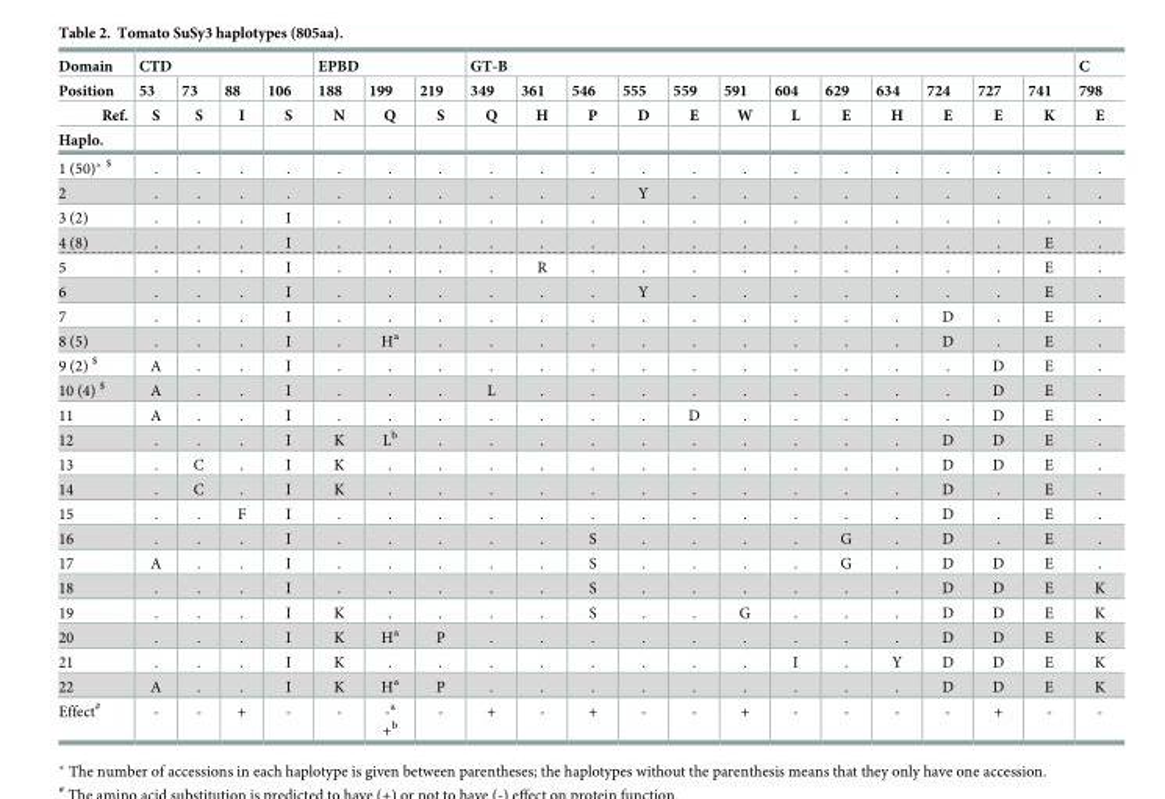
<table><thead><tr><td rowspan="4">Domain Position Ref. Haplo.</td><td colspan="4">CTD</td><td colspan="3">EPBD</td><td colspan="12">GT-B</td><td rowspan="4">C 798 E</td></tr><tr><td rowspan="3">53 S</td><td rowspan="3">73 S</td><td rowspan="3">88 I</td><td rowspan="3">106 S</td><td rowspan="3">188 N</td><td rowspan="3">199 Q</td><td rowspan="3">219 S</td><td rowspan="3">349 Q</td><td rowspan="3">361 H</td><td rowspan="3">546 P</td><td rowspan="3">555 D</td><td rowspan="3">559 E</td><td rowspan="3">591 W</td><td rowspan="3">604 L</td><td rowspan="3">629 E</td><td rowspan="3">634 H</td><td rowspan="3">724 E</td><td rowspan="3">727 E</td><td rowspan="3">741 K</td></tr><tr></tr><tr></tr></thead><tbody><tr><td>1 (50)* <sup>$</sup></td><td>.</td><td>.</td><td>.</td><td>.</td><td>.</td><td>.</td><td>.</td><td>.</td><td>.</td><td>.</td><td>.</td><td>.</td><td>.</td><td>.</td><td>.</td><td>.</td><td>.</td><td>.</td><td>.</td><td>.</td></tr><tr><td>2</td><td>.</td><td>.</td><td>.</td><td>.</td><td>.</td><td>.</td><td>.</td><td>.</td><td>.</td><td>.</td><td>Y</td><td>.</td><td>.</td><td>.</td><td>.</td><td>.</td><td>.</td><td>.</td><td>.</td><td>.</td></tr><tr><td>3 (2)</td><td>.</td><td>.</td><td>.</td><td>I</td><td>.</td><td>.</td><td>.</td><td>.</td><td>.</td><td>.</td><td>.</td><td>.</td><td>.</td><td>.</td><td>.</td><td>.</td><td>.</td><td>.</td><td>.</td><td>.</td></tr><tr><td>4 (8)</td><td>.</td><td>.</td><td>.</td><td>I</td><td>.</td><td>.</td><td>.</td><td>.</td><td>.</td><td>.</td><td>.</td><td>.</td><td>.</td><td>.</td><td>.</td><td>.</td><td>.</td><td>.</td><td>E</td><td>.</td></tr><tr><td>5</td><td>.</td><td>.</td><td>.</td><td>I</td><td>.</td><td>.</td><td>.</td><td>.</td><td>R</td><td>.</td><td>.</td><td>.</td><td>.</td><td>.</td><td>.</td><td>.</td><td>.</td><td>.</td><td>E</td><td>.</td></tr><tr><td>6</td><td>.</td><td>.</td><td>.</td><td>I</td><td>.</td><td>.</td><td>.</td><td>.</td><td>.</td><td>.</td><td>Y</td><td>.</td><td>.</td><td>.</td><td>.</td><td>.</td><td>.</td><td>.</td><td>E</td><td>.</td></tr><tr><td>7</td><td>.</td><td>.</td><td>.</td><td>I</td><td>.</td><td>.</td><td>.</td><td>.</td><td>.</td><td>.</td><td>.</td><td>.</td><td>.</td><td>.</td><td>.</td><td>.</td><td>D</td><td>.</td><td>E</td><td>.</td></tr><tr><td>8 (5)</td><td>.</td><td>.</td><td>.</td><td>I</td><td>.</td><td>H<sup>a</sup></td><td>.</td><td>.</td><td>.</td><td>.</td><td>.</td><td>.</td><td>.</td><td>.</td><td>.</td><td>.</td><td>D</td><td>.</td><td>E</td><td>.</td></tr><tr><td>9 (2) <sup>$</sup></td><td>A</td><td>.</td><td>.</td><td>I</td><td>.</td><td>.</td><td>.</td><td>.</td><td>.</td><td>.</td><td>.</td><td>.</td><td>.</td><td>.</td><td>.</td><td>.</td><td>.</td><td>D</td><td>E</td><td>.</td></tr><tr><td>10 (4) <sup>$</sup></td><td>A</td><td>.</td><td>.</td><td>I</td><td>.</td><td>.</td><td>.</td><td>L</td><td>.</td><td>.</td><td>.</td><td>.</td><td>.</td><td>.</td><td>.</td><td>.</td><td>.</td><td>D</td><td>E</td><td>.</td></tr><tr><td>11</td><td>A</td><td>.</td><td>.</td><td>I</td><td>.</td><td>.</td><td>.</td><td>.</td><td>.</td><td>.</td><td>.</td><td>D</td><td>.</td><td>.</td><td>.</td><td>.</td><td>.</td><td>D</td><td>E</td><td>.</td></tr><tr><td>12</td><td>.</td><td>.</td><td>.</td><td>I</td><td>K</td><td>L<sup>b</sup></td><td>.</td><td>.</td><td>.</td><td>.</td><td>.</td><td>.</td><td>.</td><td>.</td><td>.</td><td>.</td><td>D</td><td>D</td><td>E</td><td>.</td></tr><tr><td>13</td><td>.</td><td>C</td><td>.</td><td>I</td><td>K</td><td>.</td><td>.</td><td>.</td><td>.</td><td>.</td><td>.</td><td>.</td><td>.</td><td>.</td><td>.</td><td>.</td><td>D</td><td>D</td><td>E</td><td>.</td></tr><tr><td>14</td><td>.</td><td>C</td><td>.</td><td>I</td><td>K</td><td>.</td><td>.</td><td>.</td><td>.</td><td>.</td><td>.</td><td>.</td><td>.</td><td>.</td><td>.</td><td>.</td><td>D</td><td>.</td><td>E</td><td>.</td></tr><tr><td>15</td><td>.</td><td>.</td><td>F</td><td>I</td><td>.</td><td>.</td><td>.</td><td>.</td><td>.</td><td>.</td><td>.</td><td>.</td><td>.</td><td>.</td><td>.</td><td>.</td><td>D</td><td>.</td><td>E</td><td>.</td></tr><tr><td>16</td><td>.</td><td>.</td><td>.</td><td>I</td><td>.</td><td>.</td><td>.</td><td>.</td><td>.</td><td>S</td><td>.</td><td>.</td><td>.</td><td>.</td><td>G</td><td>.</td><td>D</td><td>.</td><td>E</td><td>.</td></tr><tr><td>17</td><td>A</td><td>.</td><td>.</td><td>I</td><td>.</td><td>.</td><td>.</td><td>.</td><td>.</td><td>S</td><td>.</td><td>.</td><td>.</td><td>.</td><td>G</td><td>.</td><td>D</td><td>D</td><td>E</td><td>.</td></tr><tr><td>18</td><td>.</td><td>.</td><td>.</td><td>I</td><td>.</td><td>.</td><td>.</td><td>.</td><td>.</td><td>S</td><td>.</td><td>.</td><td>.</td><td>.</td><td>.</td><td>.</td><td>D</td><td>D</td><td>E</td><td>K</td></tr><tr><td>19</td><td>.</td><td>.</td><td>.</td><td>I</td><td>K</td><td>.</td><td>.</td><td>.</td><td>.</td><td>S</td><td>.</td><td>.</td><td>G</td><td>.</td><td>.</td><td>.</td><td>D</td><td>D</td><td>E</td><td>K</td></tr><tr><td>20</td><td>.</td><td>.</td><td>.</td><td>I</td><td>K</td><td>H<sup>a</sup></td><td>P</td><td>.</td><td>.</td><td>.</td><td>.</td><td>.</td><td>.</td><td>.</td><td>.</td><td>.</td><td>D</td><td>D</td><td>E</td><td>K</td></tr><tr><td>21</td><td>.</td><td>.</td><td>.</td><td>I</td><td>K</td><td>.</td><td>.</td><td>.</td><td>.</td><td>.</td><td>.</td><td>.</td><td>.</td><td>I</td><td>.</td><td>Y</td><td>D</td><td>D</td><td>E</td><td>K</td></tr><tr><td>22</td><td>A</td><td>.</td><td>.</td><td>I</td><td>K</td><td>H<sup>a</sup></td><td>P</td><td>.</td><td>.</td><td>.</td><td>.</td><td>.</td><td>.</td><td>.</td><td>.</td><td>.</td><td>D</td><td>D</td><td>E</td><td>K</td></tr><tr><td>Effect<sup>#</sup></td><td>-</td><td>-</td><td>+</td><td>-</td><td>-</td><td>-<sup>a</sup> +<sup>b</sup></td><td>-</td><td>+</td><td>-</td><td>+</td><td>-</td><td>-</td><td>+</td><td>-</td><td>-</td><td>-</td><td>-</td><td>+</td><td>-</td><td>-</td></tr></tbody></table>